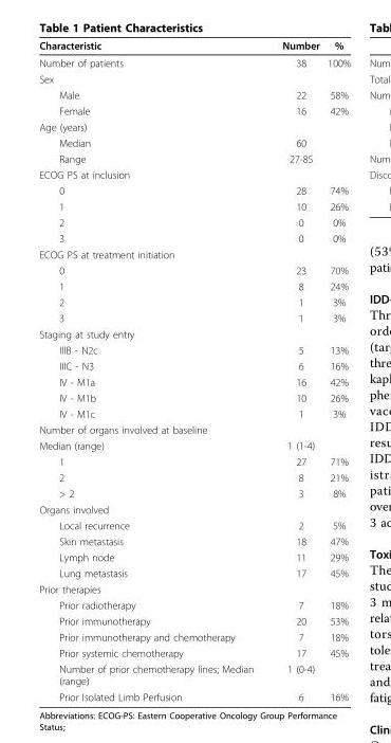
<table><thead><tr><td>Characteristic</td><td>Number</td><td>%</td></tr></thead><tbody><tr><td>Number of patients</td><td>38</td><td>100%</td></tr><tr><td colspan="3">Sex</td></tr><tr><td>Male</td><td>22</td><td>58%</td></tr><tr><td>Female</td><td>16</td><td>42%</td></tr><tr><td colspan="3">Age (years)</td></tr><tr><td>Median</td><td>60</td><td></td></tr><tr><td>Range</td><td>27-85</td><td></td></tr><tr><td colspan="3">ECOG PS at inclusion</td></tr><tr><td>0</td><td>28</td><td>74%</td></tr><tr><td>1</td><td>10</td><td>26%</td></tr><tr><td>2</td><td>0</td><td>0%</td></tr><tr><td>3</td><td>0</td><td>0%</td></tr><tr><td colspan="3">ECOG PS at treatment initiation</td></tr><tr><td>0</td><td>23</td><td>70%</td></tr><tr><td>1</td><td>8</td><td>24%</td></tr><tr><td>2</td><td>1</td><td>3%</td></tr><tr><td>3</td><td>1</td><td>3%</td></tr><tr><td colspan="3">Staging at study entry</td></tr><tr><td>IIIB - N2c</td><td>5</td><td>13%</td></tr><tr><td>IIIC - N3</td><td>6</td><td>16%</td></tr><tr><td>IV - M1a</td><td>16</td><td>42%</td></tr><tr><td>IV - M1b</td><td>10</td><td>26%</td></tr><tr><td>IV - M1c</td><td>1</td><td>3%</td></tr><tr><td colspan="3">Number of organs involved at baseline</td></tr><tr><td>Median (range)</td><td>1 (1-4)</td><td></td></tr><tr><td>1</td><td>27</td><td>71%</td></tr><tr><td>2</td><td>8</td><td>21%</td></tr><tr><td>&gt; 2</td><td>3</td><td>8%</td></tr><tr><td colspan="3">Organs involved</td></tr><tr><td>Local recurrence</td><td>2</td><td>5%</td></tr><tr><td>Skin metastasis</td><td>18</td><td>47%</td></tr><tr><td>Lymph node</td><td>11</td><td>29%</td></tr><tr><td>Lung metastasis</td><td>17</td><td>45%</td></tr><tr><td colspan="3">Prior therapies</td></tr><tr><td>Prior radiotherapy</td><td>7</td><td>18%</td></tr><tr><td>Prior immunotherapy</td><td>20</td><td>53%</td></tr><tr><td>Prior immunotherapy and chemotherapy</td><td>7</td><td>18%</td></tr><tr><td>Prior systemic chemotherapy</td><td>17</td><td>45%</td></tr><tr><td>Number of prior chemotherapy lines; Median (range)</td><td>1 (0-4)</td><td></td></tr><tr><td>Prior Isolated Limb Perfusion</td><td>6</td><td>16%</td></tr></tbody></table>